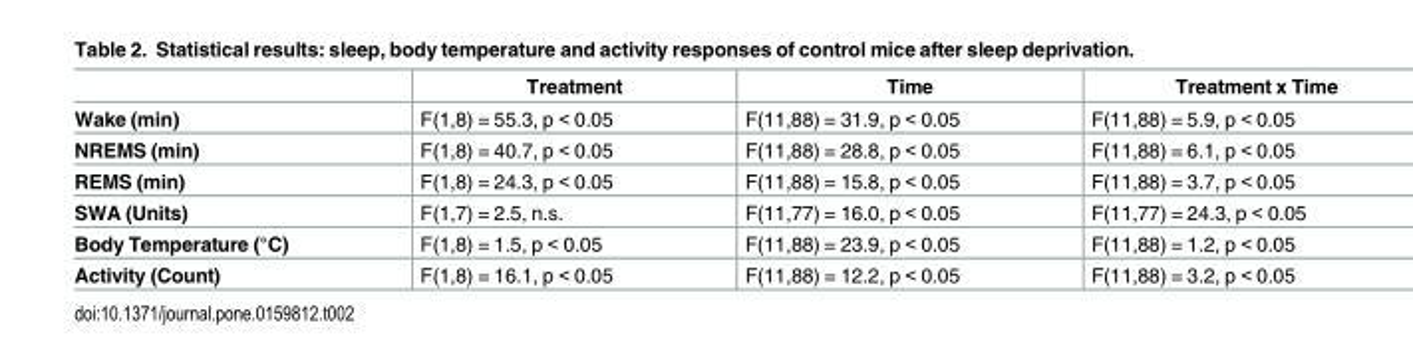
<table><thead><tr><td></td><td>Treatment</td><td>Time</td><td>Treatment x Time</td></tr></thead><tbody><tr><td>Wake (min)</td><td>F(1,8) = 55.3, p &lt; 0.05</td><td>F(11,88) = 31.9, p &lt; 0.05</td><td>F(11,88) = 5.9, p &lt; 0.05</td></tr><tr><td>NREMS (min)</td><td>F(1,8) = 40.7, p &lt; 0.05</td><td>F(11,88) = 28.8, p &lt; 0.05</td><td>F(11,88) = 6.1, p &lt; 0.05</td></tr><tr><td>REMS (min)</td><td>F(1,8) = 24.3, p &lt; 0.05</td><td>F(11,88) = 15.8, p &lt; 0.05</td><td>F(11,88) = 3.7, p &lt; 0.05</td></tr><tr><td>SWA (Units)</td><td>F(1,7) = 2.5, n.s.</td><td>F(11,77) = 16.0, p &lt; 0.05</td><td>F(11,77) = 24.3, p &lt; 0.05</td></tr><tr><td>Body Temperature (°C)</td><td>F(1,8) = 1.5, p &lt; 0.05</td><td>F(11,88) = 23.9, p &lt; 0.05</td><td>F(11,88) = 1.2, p &lt; 0.05</td></tr><tr><td>Activity (Count)</td><td>F(1,8) = 16.1, p &lt; 0.05</td><td>F(11,88) = 12.2, p &lt; 0.05</td><td>F(11,88) = 3.2, p &lt; 0.05</td></tr></tbody></table>